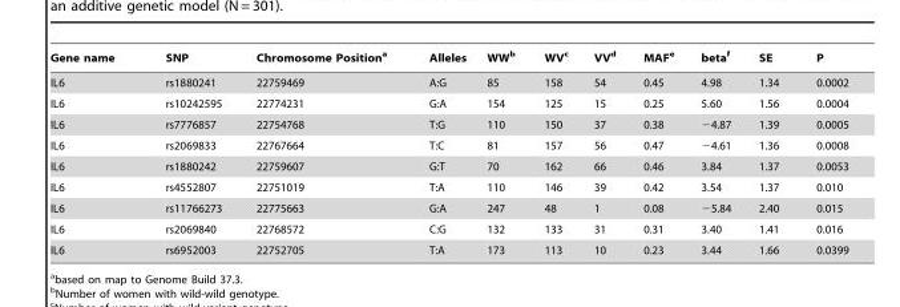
<table><thead><tr><td>Gene name</td><td>SNP</td><td>Chromosome Position<sup>a</sup></td><td>Alleles</td><td>WW<sup>b</sup></td><td>WV<sup>c</sup></td><td>VV<sup>d</sup></td><td>MAF<sup>e</sup></td><td>beta<sup>f</sup></td><td>SE</td><td>P</td></tr></thead><tbody><tr><td>IL6</td><td>rs1880241</td><td>22759469</td><td>A:G</td><td>85</td><td>158</td><td>54</td><td>0.45</td><td>4.98</td><td>1.34</td><td>0.0002</td></tr><tr><td>IL6</td><td>rs10242595</td><td>22774231</td><td>G:A</td><td>154</td><td>125</td><td>15</td><td>0.25</td><td>5.60</td><td>1.56</td><td>0.0004</td></tr><tr><td>IL6</td><td>rs7776857</td><td>22754768</td><td>T:G</td><td>110</td><td>150</td><td>37</td><td>0.38</td><td>−4.87</td><td>1.39</td><td>0.0005</td></tr><tr><td>IL6</td><td>rs2069833</td><td>22767664</td><td>T:C</td><td>81</td><td>157</td><td>56</td><td>0.47</td><td>−4.61</td><td>1.36</td><td>0.0008</td></tr><tr><td>IL6</td><td>rs1880242</td><td>22759607</td><td>G:T</td><td>70</td><td>162</td><td>66</td><td>0.46</td><td>3.84</td><td>1.37</td><td>0.0053</td></tr><tr><td>IL6</td><td>rs4552807</td><td>22751019</td><td>T:A</td><td>110</td><td>146</td><td>39</td><td>0.42</td><td>3.54</td><td>1.37</td><td>0.010</td></tr><tr><td>IL6</td><td>rs11766273</td><td>22775663</td><td>G:A</td><td>247</td><td>48</td><td>1</td><td>0.08</td><td>−5.84</td><td>2.40</td><td>0.015</td></tr><tr><td>IL6</td><td>rs2069840</td><td>22768572</td><td>C:G</td><td>132</td><td>133</td><td>31</td><td>0.31</td><td>3.40</td><td>1.41</td><td>0.016</td></tr><tr><td>IL6</td><td>rs6952003</td><td>22752705</td><td>T:A</td><td>173</td><td>113</td><td>10</td><td>0.23</td><td>3.44</td><td>1.66</td><td>0.0399</td></tr></tbody></table>